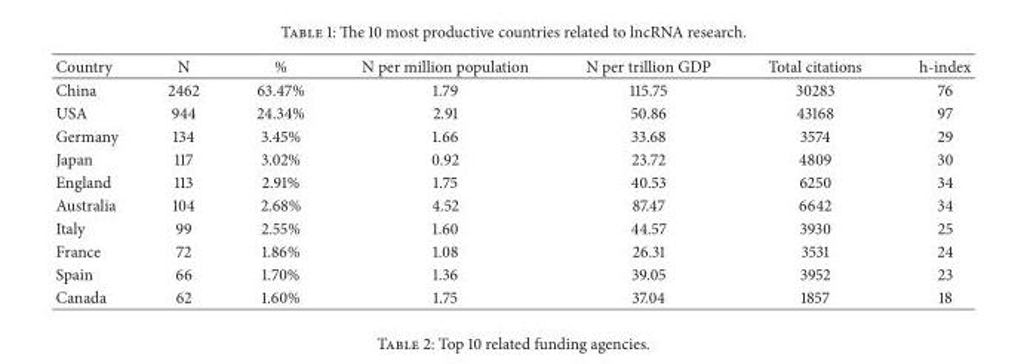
<table><thead><tr><td>Country</td><td>N</td><td>%</td><td>N per million population</td><td>N per trillion GDP</td><td>Total citations</td><td>h-index</td></tr></thead><tbody><tr><td>China</td><td>2462</td><td>63.47%</td><td>1.79</td><td>115.75</td><td>30283</td><td>76</td></tr><tr><td>USA</td><td>944</td><td>24.34%</td><td>2.91</td><td>50.86</td><td>43168</td><td>97</td></tr><tr><td>Germany</td><td>134</td><td>3.45%</td><td>1.66</td><td>33.68</td><td>3574</td><td>29</td></tr><tr><td>Japan</td><td>117</td><td>3.02%</td><td>0.92</td><td>23.72</td><td>4809</td><td>30</td></tr><tr><td>England</td><td>113</td><td>2.91%</td><td>1.75</td><td>40.53</td><td>6250</td><td>34</td></tr><tr><td>Australia</td><td>104</td><td>2.68%</td><td>4.52</td><td>87.47</td><td>6642</td><td>34</td></tr><tr><td>Italy</td><td>99</td><td>2.55%</td><td>1.60</td><td>44.57</td><td>3930</td><td>25</td></tr><tr><td>France</td><td>72</td><td>1.86%</td><td>1.08</td><td>26.31</td><td>3531</td><td>24</td></tr><tr><td>Spain</td><td>66</td><td>1.70%</td><td>1.36</td><td>39.05</td><td>3952</td><td>23</td></tr><tr><td>Canada</td><td>62</td><td>1.60%</td><td>1.75</td><td>37.04</td><td>1857</td><td>18</td></tr></tbody></table>